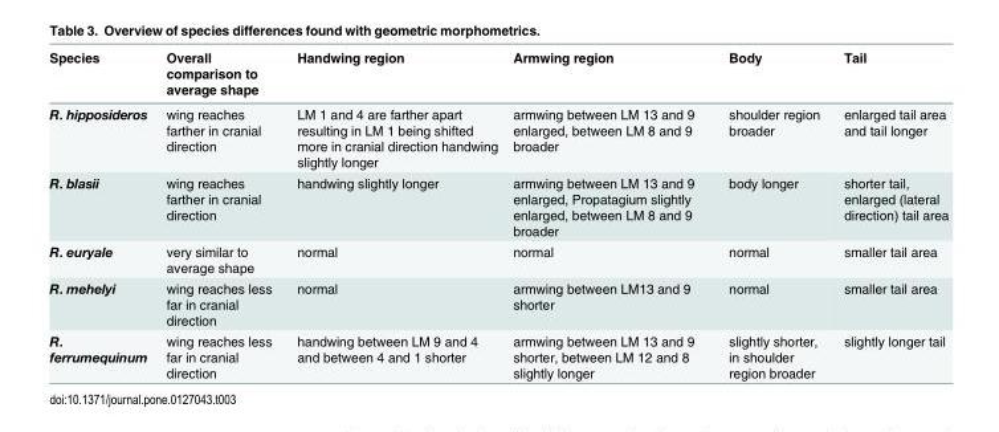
<table><thead><tr><td>Species</td><td>Overall comparison to average shape</td><td>Handwing region</td><td>Armwing region</td><td>Body</td><td>Tail</td></tr></thead><tbody><tr><td>R. hipposideros</td><td>wing reaches farther in cranial direction</td><td>LM 1 and 4 are farther apart resulting in LM 1 being shifted more in cranial direction handwing slightly longer</td><td>armwing between LM 13 and 9 enlarged, between LM 8 and 9 broader</td><td>shoulder region broader</td><td>enlarged tail area and tail longer</td></tr><tr><td>R. blasii</td><td>wing reaches farther in cranial direction</td><td>handwing slightly longer</td><td>armwing between LM 13 and 9 enlarged, Propatagium slightly enlarged, between LM 8 and 9 broader</td><td>body longer</td><td>shorter tail, enlarged (lateral direction) tail area</td></tr><tr><td>R. euryale</td><td>very similar to average shape</td><td>normal</td><td>normal</td><td>normal</td><td>smaller tail area</td></tr><tr><td>R. mehelyi</td><td>wing reaches less far in cranial direction</td><td>normal</td><td>armwing between LM13 and 9 shorter</td><td>normal</td><td>smaller tail area</td></tr><tr><td>R. ferrumequinum</td><td>wing reaches less far in cranial direction</td><td>handwing between LM 9 and 4 and between 4 and 1 shorter</td><td>armwing between LM 13 and 9 shorter, between LM 12 and 8 slightly longer</td><td>slightly shorter, in shoulder region broader</td><td>slightly longer tail</td></tr></tbody></table>